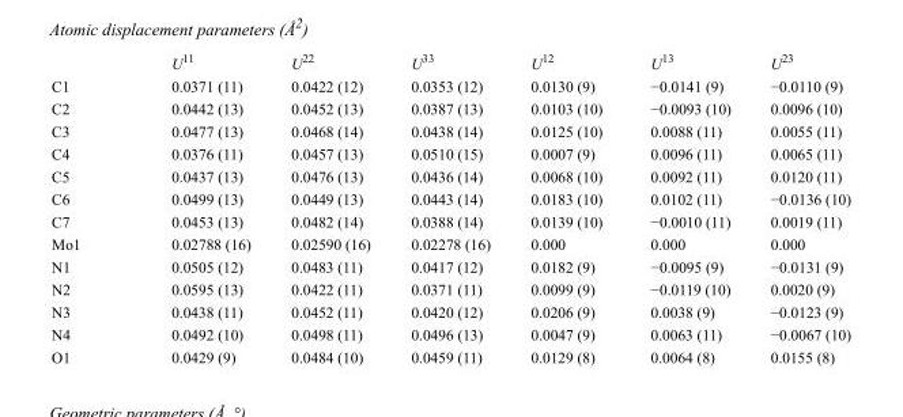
<table><thead><tr><td></td><td>U<sup>11</sup></td><td>U<sup>22</sup></td><td>U<sup>33</sup></td><td>U<sup>12</sup></td><td>U<sup>13</sup></td><td>U<sup>23</sup></td></tr></thead><tbody><tr><td>C1</td><td>0.0371 (11)</td><td>0.0422 (12)</td><td>0.0353 (12)</td><td>0.0130 (9)</td><td>−0.0141 (9)</td><td>−0.0110 (9)</td></tr><tr><td>C2</td><td>0.0442 (13)</td><td>0.0452 (13)</td><td>0.0387 (13)</td><td>0.0103 (10)</td><td>−0.0093 (10)</td><td>0.0096 (10)</td></tr><tr><td>C3</td><td>0.0477 (13)</td><td>0.0468 (14)</td><td>0.0438 (14)</td><td>0.0125 (10)</td><td>0.0088 (11)</td><td>0.0055 (11)</td></tr><tr><td>C4</td><td>0.0376 (11)</td><td>0.0457 (13)</td><td>0.0510 (15)</td><td>0.0007 (9)</td><td>0.0096 (11)</td><td>0.0065 (11)</td></tr><tr><td>C5</td><td>0.0437 (13)</td><td>0.0476 (13)</td><td>0.0436 (14)</td><td>0.0068 (10)</td><td>0.0092 (11)</td><td>0.0120 (11)</td></tr><tr><td>C6</td><td>0.0499 (13)</td><td>0.0449 (13)</td><td>0.0443 (14)</td><td>0.0183 (10)</td><td>0.0102 (11)</td><td>−0.0136 (10)</td></tr><tr><td>C7</td><td>0.0453 (13)</td><td>0.0482 (14)</td><td>0.0388 (14)</td><td>0.0139 (10)</td><td>−0.0010 (11)</td><td>0.0019 (11)</td></tr><tr><td>Mo1</td><td>0.02788 (16)</td><td>0.02590 (16)</td><td>0.02278 (16)</td><td>0.000</td><td>0.000</td><td>0.000</td></tr><tr><td>N1</td><td>0.0505 (12)</td><td>0.0483 (11)</td><td>0.0417 (12)</td><td>0.0182 (9)</td><td>−0.0095 (9)</td><td>−0.0131 (9)</td></tr><tr><td>N2</td><td>0.0595 (13)</td><td>0.0422 (11)</td><td>0.0371 (11)</td><td>0.0099 (9)</td><td>−0.0119 (10)</td><td>0.0020 (9)</td></tr><tr><td>N3</td><td>0.0438 (11)</td><td>0.0452 (11)</td><td>0.0420 (12)</td><td>0.0206 (9)</td><td>0.0038 (9)</td><td>−0.0123 (9)</td></tr><tr><td>N4</td><td>0.0492 (10)</td><td>0.0498 (11)</td><td>0.0496 (13)</td><td>0.0047 (9)</td><td>0.0063 (11)</td><td>−0.0067 (10)</td></tr><tr><td>O1</td><td>0.0429 (9)</td><td>0.0484 (10)</td><td>0.0459 (11)</td><td>0.0129 (8)</td><td>0.0064 (8)</td><td>0.0155 (8)</td></tr></tbody></table>